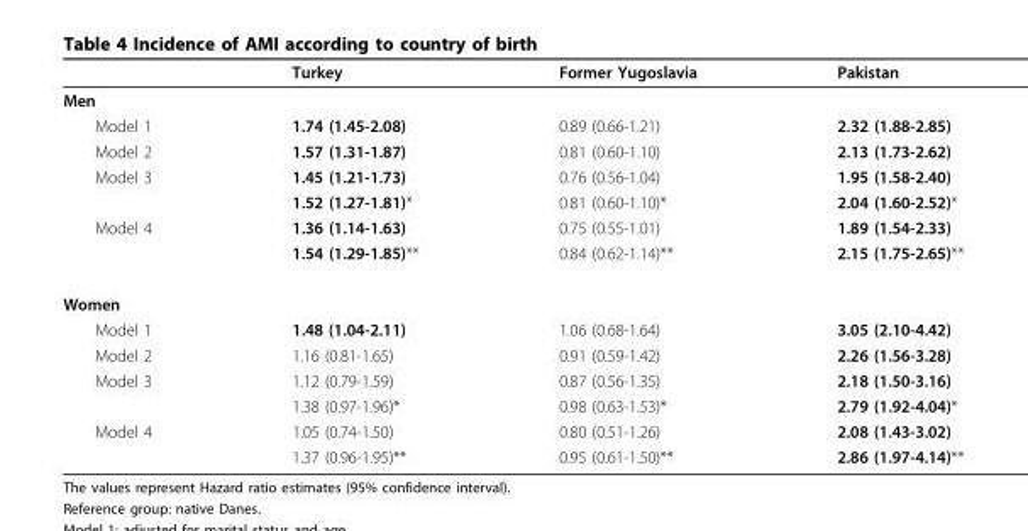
<table><thead><tr><td></td><td>Turkey</td><td>Former Yugoslavia</td><td>Pakistan</td></tr></thead><tbody><tr><td colspan="4">Men</td></tr><tr><td>Model 1</td><td>1.74 (1.45-2.08)</td><td>0.89 (0.66-1.21)</td><td>2.32 (1.88-2.85)</td></tr><tr><td>Model 2</td><td>1.57 (1.31-1.87)</td><td>0.81 (0.60-1.10)</td><td>2.13 (1.73-2.62)</td></tr><tr><td rowspan="2">Model 3</td><td>1.45 (1.21-1.73)</td><td>0.76 (0.56-1.04)</td><td>1.95 (1.58-2.40)</td></tr><tr><td>1.52 (1.27-1.81)*</td><td>0.81 (0.60-1.10)*</td><td>2.04 (1.60-2.52)*</td></tr><tr><td rowspan="2">Model 4</td><td>1.36 (1.14-1.63)</td><td>0.75 (0.55-1.01)</td><td>1.89 (1.54-2.33)</td></tr><tr><td>1.54 (1.29-1.85)**</td><td>0.84 (0.62-1.14)**</td><td>2.15 (1.75-2.65)**</td></tr><tr><td colspan="4">Women</td></tr><tr><td>Model 1</td><td>1.48 (1.04-2.11)</td><td>1.06 (0.68-1.64)</td><td>3.05 (2.10-4.42)</td></tr><tr><td>Model 2</td><td>1.16 (0.81-1.65)</td><td>0.91 (0.59-1.42)</td><td>2.26 (1.56-3.28)</td></tr><tr><td rowspan="2">Model 3</td><td>1.12 (0.79-1.59)</td><td>0.87 (0.56-1.35)</td><td>2.18 (1.50-3.16)</td></tr><tr><td>1.38 (0.97-1.96)*</td><td>0.98 (0.63-1.53)*</td><td>2.79 (1.92-4.04)*</td></tr><tr><td rowspan="2">Model 4</td><td>1.05 (0.74-1.50)</td><td>0.80 (0.51-1.26)</td><td>2.08 (1.43-3.02)</td></tr><tr><td>1.37 (0.96-1.95)**</td><td>0.95 (0.61-1.50)**</td><td>2.86 (1.97-4.14)**</td></tr></tbody></table>